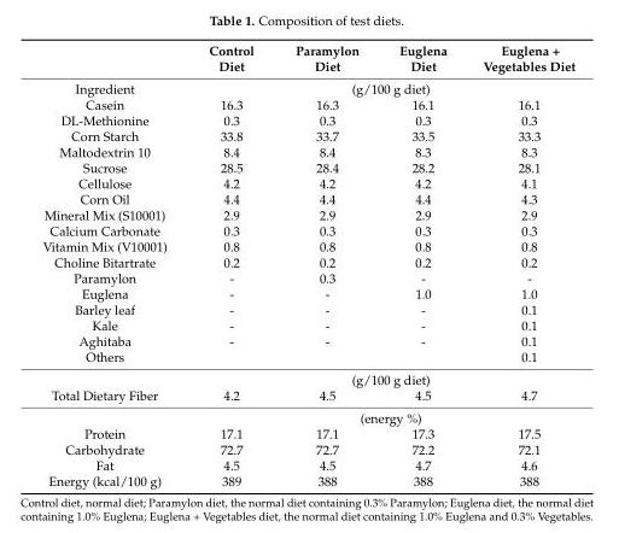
<table><thead><tr><td></td><td>Control Diet</td><td>Paramylon Diet</td><td>Euglena Diet</td><td>Euglena + Vegetables Diet</td></tr></thead><tbody><tr><td>Ingredient</td><td colspan="4">(g/100 g diet)</td></tr><tr><td>Casein</td><td>16.3</td><td>16.3</td><td>16.1</td><td>16.1</td></tr><tr><td>DL-Methionine</td><td>0.3</td><td>0.3</td><td>0.3</td><td>0.3</td></tr><tr><td>Corn Starch</td><td>33.8</td><td>33.7</td><td>33.5</td><td>33.3</td></tr><tr><td>Maltodextrin 10</td><td>8.4</td><td>8.4</td><td>8.3</td><td>8.3</td></tr><tr><td>Sucrose</td><td>28.5</td><td>28.4</td><td>28.2</td><td>28.1</td></tr><tr><td>Cellulose</td><td>4.2</td><td>4.2</td><td>4.2</td><td>4.1</td></tr><tr><td>Corn Oil</td><td>4.4</td><td>4.4</td><td>4.4</td><td>4.3</td></tr><tr><td>Mineral Mix (S10001)</td><td>2.9</td><td>2.9</td><td>2.9</td><td>2.9</td></tr><tr><td>Calcium Carbonate</td><td>0.3</td><td>0.3</td><td>0.3</td><td>0.3</td></tr><tr><td>Vitamin Mix (V10001)</td><td>0.8</td><td>0.8</td><td>0.8</td><td>0.8</td></tr><tr><td>Choline Bitartrate</td><td>0.2</td><td>0.2</td><td>0.2</td><td>0.2</td></tr><tr><td>Paramylon</td><td>-</td><td>0.3</td><td>-</td><td>-</td></tr><tr><td>Euglena</td><td>-</td><td>-</td><td>1.0</td><td>1.0</td></tr><tr><td>Barley leaf</td><td>-</td><td>-</td><td>-</td><td>0.1</td></tr><tr><td>Kale</td><td>-</td><td>-</td><td>-</td><td>0.1</td></tr><tr><td>Aghitaba</td><td>-</td><td>-</td><td>-</td><td>0.1</td></tr><tr><td rowspan="2">Others</td><td></td><td></td><td></td><td>0.1</td></tr><tr><td colspan="4">(g/100 g diet)</td></tr><tr><td rowspan="2">Total Dietary Fiber</td><td>4.2</td><td>4.5</td><td>4.5</td><td>4.7</td></tr><tr><td colspan="4">(energy %)</td></tr><tr><td>Protein</td><td>17.1</td><td>17.1</td><td>17.3</td><td>17.5</td></tr><tr><td>Carbohydrate</td><td>72.7</td><td>72.7</td><td>72.2</td><td>72.1</td></tr><tr><td>Fat</td><td>4.5</td><td>4.5</td><td>4.7</td><td>4.6</td></tr><tr><td>Energy (kcal/100 g)</td><td>389</td><td>388</td><td>388</td><td>388</td></tr></tbody></table>